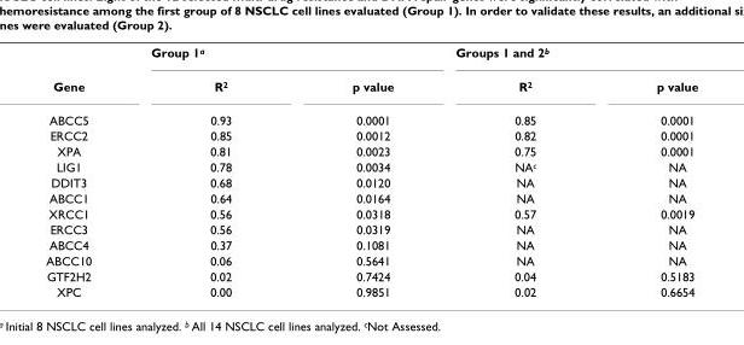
<table><thead><tr><td rowspan="2">Gene</td><td colspan="2">Group 1<sup>a</sup></td><td colspan="2">Groups 1 and 2<sup>b</sup></td></tr><tr><td>R<sup>2</sup></td><td>p value</td><td>R<sup>2</sup></td><td>p value</td></tr></thead><tbody><tr><td>ABCC5</td><td>0.93</td><td>0.0001</td><td>0.85</td><td>0.0001</td></tr><tr><td>ERCC2</td><td>0.85</td><td>0.0012</td><td>0.82</td><td>0.0001</td></tr><tr><td>XPA</td><td>0.81</td><td>0.0023</td><td>0.75</td><td>0.0001</td></tr><tr><td>LIG1</td><td>0.78</td><td>0.0034</td><td>NA<sup>c</sup></td><td>NA</td></tr><tr><td>DDIT3</td><td>0.68</td><td>0.0120</td><td>NA</td><td>NA</td></tr><tr><td>ABCC1</td><td>0.64</td><td>0.0164</td><td>NA</td><td>NA</td></tr><tr><td>XRCC1</td><td>0.56</td><td>0.0318</td><td>0.57</td><td>0.0019</td></tr><tr><td>ERCC3</td><td>0.56</td><td>0.0319</td><td>NA</td><td>NA</td></tr><tr><td>ABCC4</td><td>0.37</td><td>0.1081</td><td>NA</td><td>NA</td></tr><tr><td>ABCC10</td><td>0.06</td><td>0.5641</td><td>NA</td><td>NA</td></tr><tr><td>GTF2H2</td><td>0.02</td><td>0.7424</td><td>0.04</td><td>0.5183</td></tr><tr><td>XPC</td><td>0.00</td><td>0.9851</td><td>0.02</td><td>0.6654</td></tr></tbody></table>